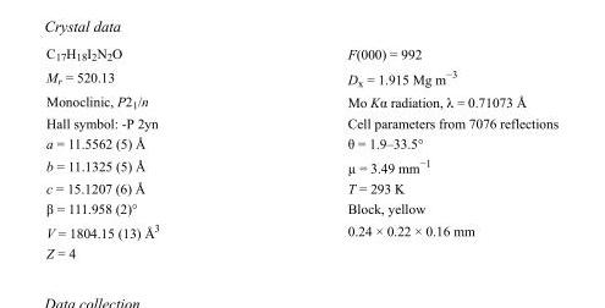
<table><tbody><tr><td>C<sub>17</sub>H<sub>18</sub>I<sub>2</sub>N<sub>2</sub>O</td><td>F(000) = 992</td></tr><tr><td>M<sub>r</sub> = 520.13</td><td>D<sub>x</sub> = 1.915 Mg m<sup>−3</sup></td></tr><tr><td>Monoclinic, P2<sub>1</sub>/n</td><td>Mo Kα radiation, λ = 0.71073 Å</td></tr><tr><td>Hall symbol: -P 2yn</td><td>Cell parameters from 7076 reflections</td></tr><tr><td>a = 11.5562 (5) Å</td><td>θ = 1.9–33.5°</td></tr><tr><td>b = 11.1325 (5) Å</td><td>µ = 3.49 mm<sup>−1</sup></td></tr><tr><td>c = 15.1207 (6) Å</td><td>T = 293 K</td></tr><tr><td>β = 111.958 (2)°</td><td>Block, yellow</td></tr><tr><td>V = 1804.15 (13) Å<sup>3</sup></td><td>0.24 × 0.22 × 0.16 mm</td></tr><tr><td>Z = 4</td><td></td></tr></tbody></table>